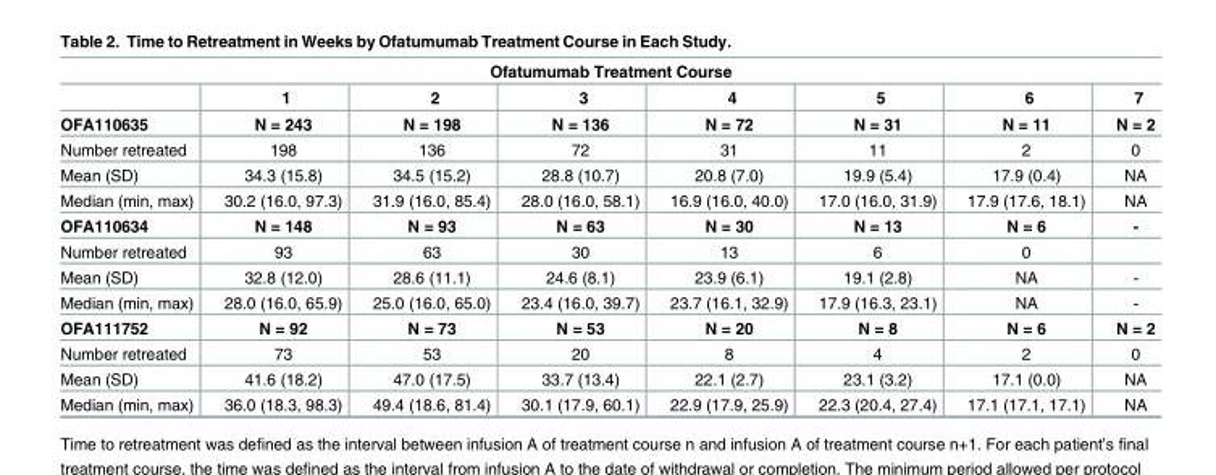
<table><thead><tr><td colspan="8">Ofatumumab Treatment Course</td></tr><tr><td></td><td>1</td><td>2</td><td>3</td><td>4</td><td>5</td><td>6</td><td>7</td></tr></thead><tbody><tr><td>OFA110635</td><td>N = 243</td><td>N = 198</td><td>N = 136</td><td>N = 72</td><td>N = 31</td><td>N = 11</td><td>N = 2</td></tr><tr><td>Number retreated</td><td>198</td><td>136</td><td>72</td><td>31</td><td>11</td><td>2</td><td>0</td></tr><tr><td>Mean (SD)</td><td>34.3 (15.8)</td><td>34.5 (15.2)</td><td>28.8 (10.7)</td><td>20.8 (7.0)</td><td>19.9 (5.4)</td><td>17.9 (0.4)</td><td>NA</td></tr><tr><td>Median (min, max)</td><td>30.2 (16.0, 97.3)</td><td>31.9 (16.0, 85.4)</td><td>28.0 (16.0, 58.1)</td><td>16.9 (16.0, 40.0)</td><td>17.0 (16.0, 31.9)</td><td>17.9 (17.6, 18.1)</td><td>NA</td></tr><tr><td>OFA110634</td><td>N = 148</td><td>N = 93</td><td>N = 63</td><td>N = 30</td><td>N = 13</td><td>N = 6</td><td>-</td></tr><tr><td>Number retreated</td><td>93</td><td>63</td><td>30</td><td>13</td><td>6</td><td>0</td><td></td></tr><tr><td>Mean (SD)</td><td>32.8 (12.0)</td><td>28.6 (11.1)</td><td>24.6 (8.1)</td><td>23.9 (6.1)</td><td>19.1 (2.8)</td><td>NA</td><td>-</td></tr><tr><td>Median (min, max)</td><td>28.0 (16.0, 65.9)</td><td>25.0 (16.0, 65.0)</td><td>23.4 (16.0, 39.7)</td><td>23.7 (16.1, 32.9)</td><td>17.9 (16.3, 23.1)</td><td>NA</td><td>-</td></tr><tr><td>OFA111752</td><td>N = 92</td><td>N = 73</td><td>N = 53</td><td>N = 20</td><td>N = 8</td><td>N = 6</td><td>N = 2</td></tr><tr><td>Number retreated</td><td>73</td><td>53</td><td>20</td><td>8</td><td>4</td><td>2</td><td>0</td></tr><tr><td>Mean (SD)</td><td>41.6 (18.2)</td><td>47.0 (17.5)</td><td>33.7 (13.4)</td><td>22.1 (2.7)</td><td>23.1 (3.2)</td><td>17.1 (0.0)</td><td>NA</td></tr><tr><td>Median (min, max)</td><td>36.0 (18.3, 98.3)</td><td>49.4 (18.6, 81.4)</td><td>30.1 (17.9, 60.1)</td><td>22.9 (17.9, 25.9)</td><td>22.3 (20.4, 27.4)</td><td>17.1 (17.1, 17.1)</td><td>NA</td></tr></tbody></table>